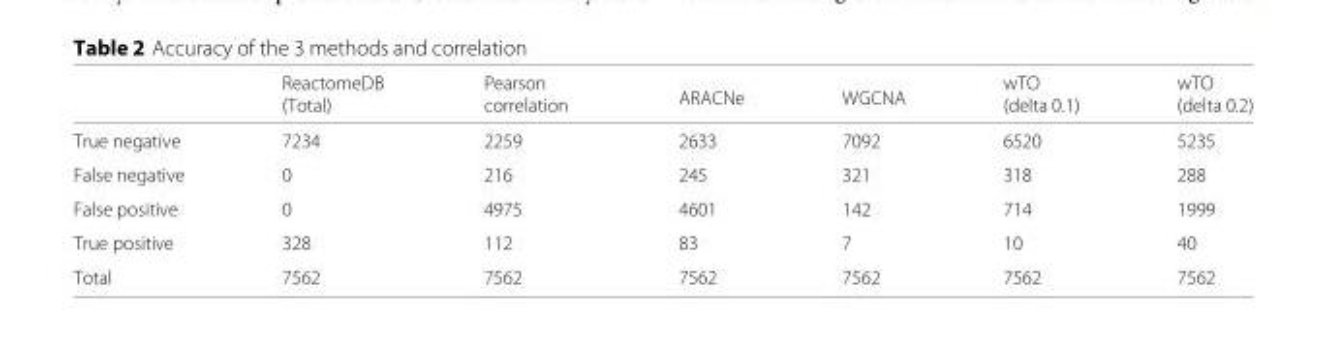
<table><thead><tr><td></td><td>ReactomeDB (Total)</td><td>Pearson correlation</td><td>ARACNe</td><td>WGCNA</td><td>wTO (delta 0.1)</td><td>wTO (delta 0.2)</td></tr></thead><tbody><tr><td>True negative</td><td>7234</td><td>2259</td><td>2633</td><td>7092</td><td>6520</td><td>5235</td></tr><tr><td>False negative</td><td>0</td><td>216</td><td>245</td><td>321</td><td>318</td><td>288</td></tr><tr><td>False positive</td><td>0</td><td>4975</td><td>4601</td><td>142</td><td>714</td><td>1999</td></tr><tr><td>True positive</td><td>328</td><td>112</td><td>83</td><td>7</td><td>10</td><td>40</td></tr><tr><td>Total</td><td>7562</td><td>7562</td><td>7562</td><td>7562</td><td>7562</td><td>7562</td></tr></tbody></table>